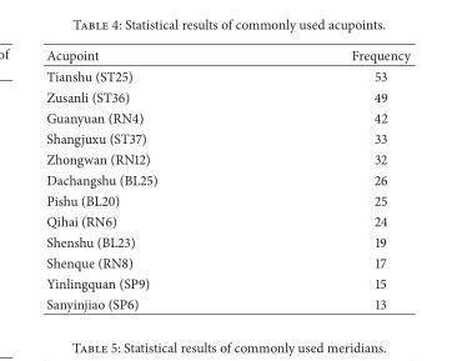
<table><thead><tr><td>Acupoint</td><td>Frequency</td></tr></thead><tbody><tr><td>Tianshu (ST25)</td><td>53</td></tr><tr><td>Zusanli (ST36)</td><td>49</td></tr><tr><td>Guanyuan (RN4)</td><td>42</td></tr><tr><td>Shangjuxu (ST37)</td><td>33</td></tr><tr><td>Zhongwan (RN12)</td><td>32</td></tr><tr><td>Dachangshu (BL25)</td><td>26</td></tr><tr><td>Pishu (BL20)</td><td>25</td></tr><tr><td>Qihai (RN6)</td><td>24</td></tr><tr><td>Shenshu (BL23)</td><td>19</td></tr><tr><td>Shenque (RN8)</td><td>17</td></tr><tr><td>Yinlingquan (SP9)</td><td>15</td></tr><tr><td>Sanyinjiao (SP6)</td><td>13</td></tr></tbody></table>